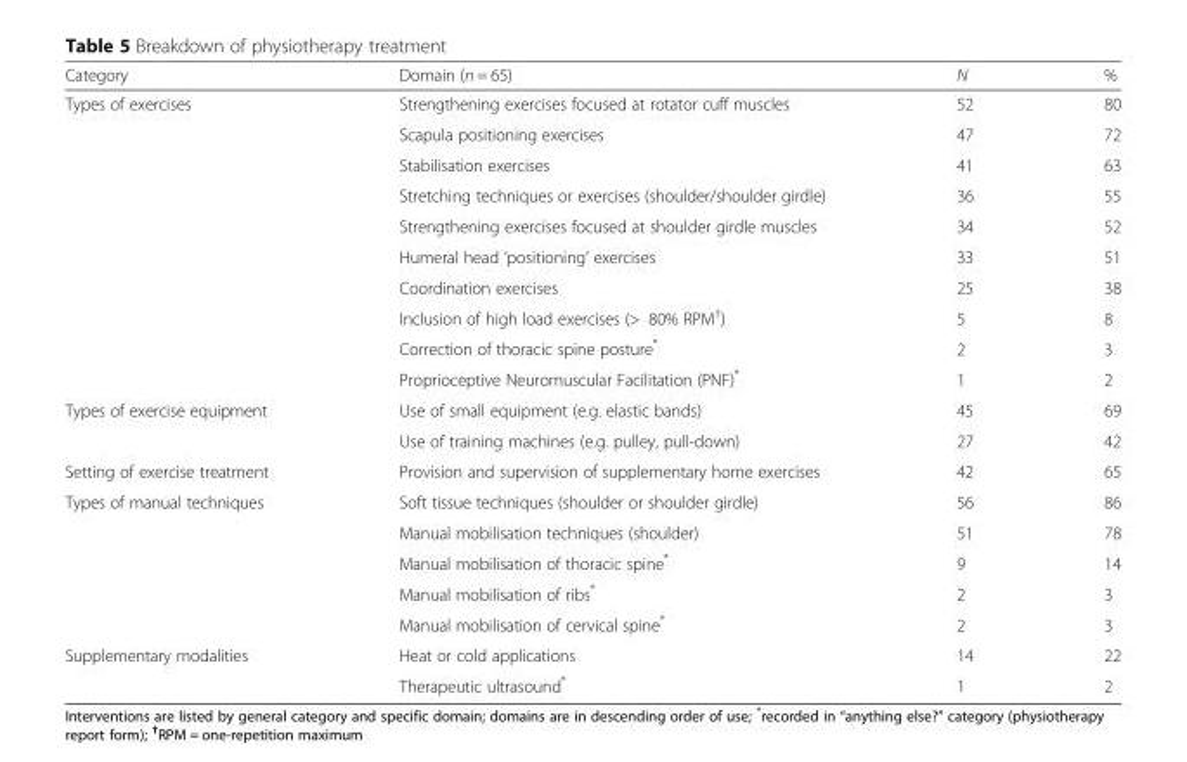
<table><thead><tr><td>Category</td><td>Domain (n = 65)</td><td>N</td><td>%</td></tr></thead><tbody><tr><td rowspan="10">Types of exercises</td><td>Strengthening exercises focused at rotator cuff muscles</td><td>52</td><td>80</td></tr><tr><td>Scapula positioning exercises</td><td>47</td><td>72</td></tr><tr><td>Stabilisation exercises</td><td>41</td><td>63</td></tr><tr><td>Stretching techniques or exercises (shoulder/shoulder girdle)</td><td>36</td><td>55</td></tr><tr><td>Strengthening exercises focused at shoulder girdle muscles</td><td>34</td><td>52</td></tr><tr><td>Humeral head ‘positioning’ exercises</td><td>33</td><td>51</td></tr><tr><td>Coordination exercises</td><td>25</td><td>38</td></tr><tr><td>Inclusion of high load exercises (&gt; 80% RPM<sup>†</sup>)</td><td>5</td><td>8</td></tr><tr><td>Correction of thoracic spine posture*</td><td>2</td><td>3</td></tr><tr><td>Proprioceptive Neuromuscular Facilitation (PNF)*</td><td>1</td><td>2</td></tr><tr><td rowspan="2">Types of exercise equipment</td><td>Use of small equipment (e.g. elastic bands)</td><td>45</td><td>69</td></tr><tr><td>Use of training machines (e.g. pulley, pull-down)</td><td>27</td><td>42</td></tr><tr><td>Setting of exercise treatment</td><td>Provision and supervision of supplementary home exercises</td><td>42</td><td>65</td></tr><tr><td rowspan="5">Types of manual techniques</td><td>Soft tissue techniques (shoulder or shoulder girdle)</td><td>56</td><td>86</td></tr><tr><td>Manual mobilisation techniques (shoulder)</td><td>51</td><td>78</td></tr><tr><td>Manual mobilisation of thoracic spine*</td><td>9</td><td>14</td></tr><tr><td>Manual mobilisation of ribs*</td><td>2</td><td>3</td></tr><tr><td>Manual mobilisation of cervical spine*</td><td>2</td><td>3</td></tr><tr><td rowspan="2">Supplementary modalities</td><td>Heat or cold applications</td><td>14</td><td>22</td></tr><tr><td>Therapeutic ultrasound*</td><td>1</td><td>2</td></tr></tbody></table>